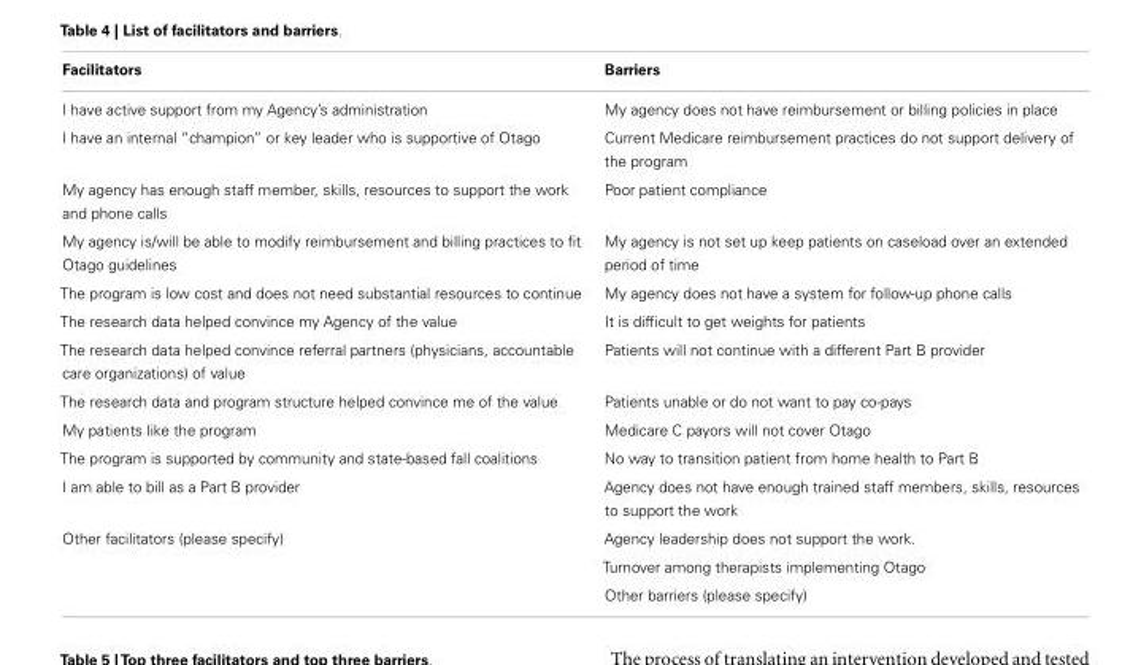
<table><thead><tr><td>Facilitators</td><td>Barriers</td></tr></thead><tbody><tr><td>I have active support from my Agency’s administration</td><td>My agency does not have reimbursement or billing policies in place</td></tr><tr><td>I have an internal “champion” or key leader who is supportive of Otago</td><td>Current Medicare reimbursement practices do not support delivery of the program</td></tr><tr><td>My agency has enough staff member, skills, resources to support the work and phone calls</td><td>Poor patient compliance</td></tr><tr><td>My agency is/will be able to modify reimbursement and billing practices to fit Otago guidelines</td><td>My agency is not set up keep patients on caseload over an extended period of time</td></tr><tr><td>The program is low cost and does not need substantial resources to continue</td><td>My agency does not have a system for follow-up phone calls</td></tr><tr><td>The research data helped convince my Agency of the value</td><td>It is difficult to get weights for patients</td></tr><tr><td>The research data helped convince referral partners (physicians, accountable care organizations) of value</td><td>Patients will not continue with a different Part B provider</td></tr><tr><td>The research data and program structure helped convince me of the value</td><td>Patients unable or do not want to pay co-pays</td></tr><tr><td>My patients like the program</td><td>Medicare C payors will not cover Otago</td></tr><tr><td>The program is supported by community and state-based fall coalitions</td><td>No way to transition patient from home health to Part B</td></tr><tr><td>I am able to bill as a Part B provider</td><td>Agency does not have enough trained staff members, skills, resources to support the work</td></tr><tr><td rowspan="3">Other facilitators (please specify)</td><td>Agency leadership does not support the work.</td></tr><tr><td>Turnover among therapists implementing Otago</td></tr><tr><td>Other barriers (please specify)</td></tr></tbody></table>